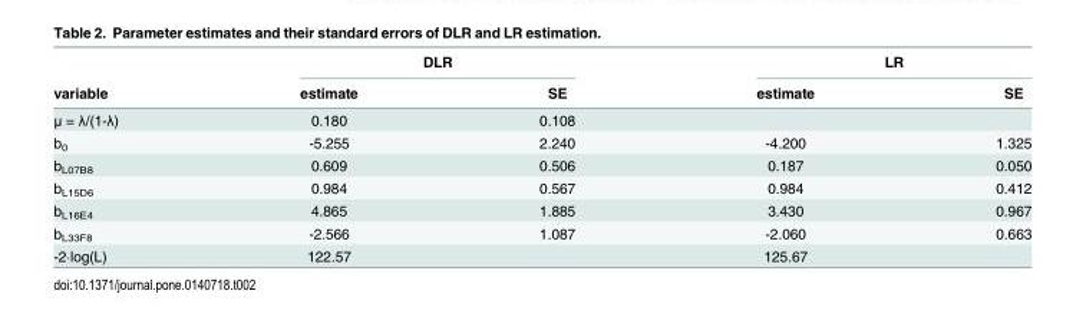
<table><thead><tr><td rowspan="2">variable</td><td colspan="2">DLR</td><td colspan="2">LR</td></tr><tr><td>estimate</td><td>SE</td><td>estimate</td><td>SE</td></tr></thead><tbody><tr><td>μ = λ/(1-λ)</td><td>0.180</td><td>0.108</td><td></td><td></td></tr><tr><td>b<sub>0</sub></td><td>-5.255</td><td>2.240</td><td>-4.200</td><td>1.325</td></tr><tr><td>b<sub>L07B8</sub></td><td>0.609</td><td>0.506</td><td>0.187</td><td>0.050</td></tr><tr><td>b<sub>L15D6</sub></td><td>0.984</td><td>0.567</td><td>0.984</td><td>0.412</td></tr><tr><td>b<sub>L16E4</sub></td><td>4.865</td><td>1.885</td><td>3.430</td><td>0.967</td></tr><tr><td>b<sub>L33F8</sub></td><td>-2.566</td><td>1.087</td><td>-2.060</td><td>0.663</td></tr><tr><td>-2∙log(L)</td><td>122.57</td><td></td><td>125.67</td><td></td></tr></tbody></table>